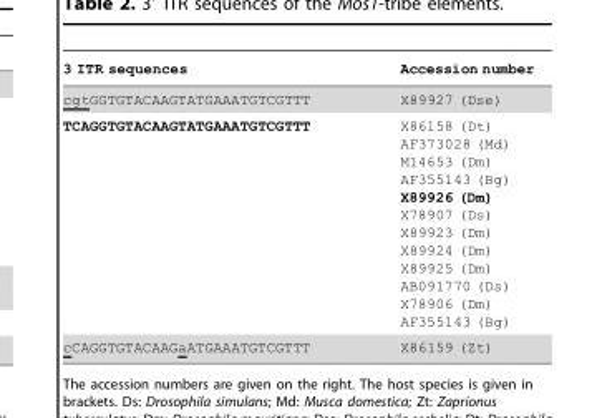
<table><thead><tr><td>3 ITR sequences</td><td>Accession number</td></tr></thead><tbody><tr><td>cgtGGTGTACAAGTATGAAATGTCGTTT</td><td>X89927 (Dse)</td></tr><tr><td>TCAGGTGTACAAGTATGAAATGTCGTTT</td><td>X86158 (Dt) AF373028 (Md) M14653 (Dm) AF355143 (Bg) X89926 (Dm) X78907 (Ds) X89923 (Dm) X89924 (Dm) X89925 (Dm) AB091770 (Ds) X78906 (Dm) AF355143 (Bg)</td></tr><tr><td>cCAGGTGTACAAGaATGAAATGTCGTTT</td><td>X86159 (Zt)</td></tr></tbody></table>